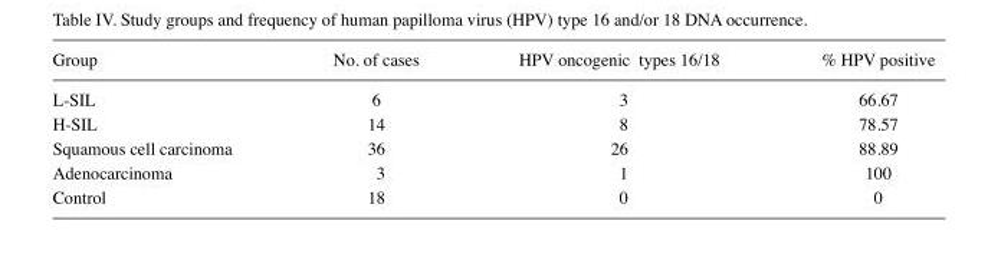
<table><thead><tr><td>Group</td><td>No. of cases</td><td>HPV oncogenic types 16/18</td><td>% HPV positive</td></tr></thead><tbody><tr><td>L-SIL</td><td>6</td><td>3</td><td>66.67</td></tr><tr><td>H-SIL</td><td>14</td><td>8</td><td>78.57</td></tr><tr><td>Squamous cell carcinoma</td><td>36</td><td>26</td><td>88.89</td></tr><tr><td>Adenocarcinoma</td><td>3</td><td>1</td><td>100</td></tr><tr><td>Control</td><td>18</td><td>0</td><td>0</td></tr></tbody></table>